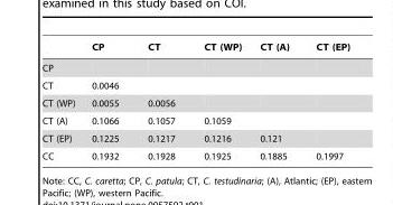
<table><thead><tr><td></td><td>CP</td><td>CT</td><td>CT (WP)</td><td>CT (A)</td><td>CT (EP)</td></tr></thead><tbody><tr><td colspan="6">CP</td></tr><tr><td>CT</td><td>0.0046</td><td></td><td></td><td></td><td></td></tr><tr><td>CT (WP)</td><td>0.0055</td><td>0.0056</td><td></td><td></td><td></td></tr><tr><td>CT (A)</td><td>0.1066</td><td>0.1057</td><td>0.1059</td><td></td><td></td></tr><tr><td>CT (EP)</td><td>0.1225</td><td>0.1217</td><td>0.1216</td><td>0.121</td><td></td></tr><tr><td>CC</td><td>0.1932</td><td>0.1928</td><td>0.1925</td><td>0.1885</td><td>0.1997</td></tr></tbody></table>